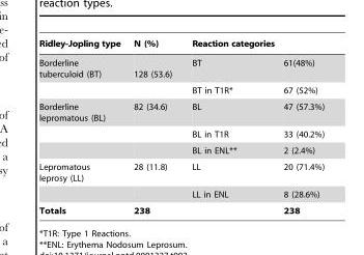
<table><thead><tr><td>Ridley-Jopling type</td><td>N (%)</td><td>Reaction categories</td><td></td></tr></thead><tbody><tr><td rowspan="2">Borderline tuberculoid (BT)</td><td>128 (53.6)</td><td>BT</td><td>61(48%)</td></tr><tr><td></td><td>BT in T1R*</td><td>67 (52%)</td></tr><tr><td rowspan="3">Borderline lepromatous (BL)</td><td>82 (34.6)</td><td>BL</td><td>47 (57.3%)</td></tr><tr><td></td><td>BL in T1R</td><td>33 (40.2%)</td></tr><tr><td></td><td>BL in ENL**</td><td>2 (2.4%)</td></tr><tr><td rowspan="2">Lepromatous leprosy (LL)</td><td>28 (11.8)</td><td>LL</td><td>20 (71.4%)</td></tr><tr><td></td><td>LL in ENL</td><td>8 (28.6%)</td></tr><tr><td>Totals</td><td>238</td><td></td><td>238</td></tr></tbody></table>